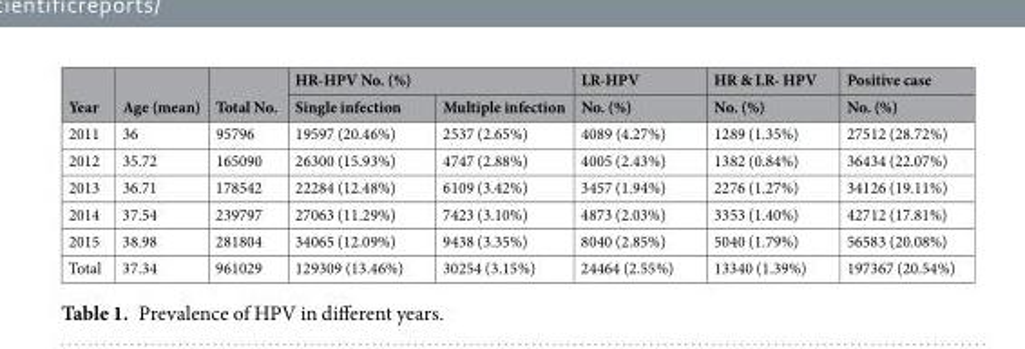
<table><thead><tr><td rowspan="2">Year</td><td rowspan="2">Age (mean)</td><td rowspan="2">Total No.</td><td colspan="2">HR-HPV No. (%)</td><td rowspan="2">LR-HPV No. (%)</td><td rowspan="2">HR &amp; LR- HPV No. (%)</td><td rowspan="2">Positive case No. (%)</td></tr><tr><td>Single infection</td><td>Multiple infection</td></tr></thead><tbody><tr><td>2011</td><td>36</td><td>95796</td><td>19597 (20.46%)</td><td>2537 (2.65%)</td><td>4089 (4.27%)</td><td>1289 (1.35%)</td><td>27512 (28.72%)</td></tr><tr><td>2012</td><td>35.72</td><td>165090</td><td>26300 (15.93%)</td><td>4747 (2.88%)</td><td>4005 (2.43%)</td><td>1382 (0.84%)</td><td>36434 (22.07%)</td></tr><tr><td>2013</td><td>36.71</td><td>178542</td><td>22284 (12.48%)</td><td>6109 (3.42%)</td><td>3457 (1.94%)</td><td>2276 (1.27%)</td><td>34126 (19.11%)</td></tr><tr><td>2014</td><td>37.54</td><td>239797</td><td>27063 (11.29%)</td><td>7423 (3.10%)</td><td>4873 (2.03%)</td><td>3353 (1.40%)</td><td>42712 (17.81%)</td></tr><tr><td>2015</td><td>38.98</td><td>281804</td><td>34065 (12.09%)</td><td>9438 (3.35%)</td><td>8040 (2.85%)</td><td>5040 (1.79%)</td><td>56583 (20.08%)</td></tr><tr><td>Total</td><td>37.34</td><td>961029</td><td>129309 (13.46%)</td><td>30254 (3.15%)</td><td>24464 (2.55%)</td><td>13340 (1.39%)</td><td>197367 (20.54%)</td></tr></tbody></table>